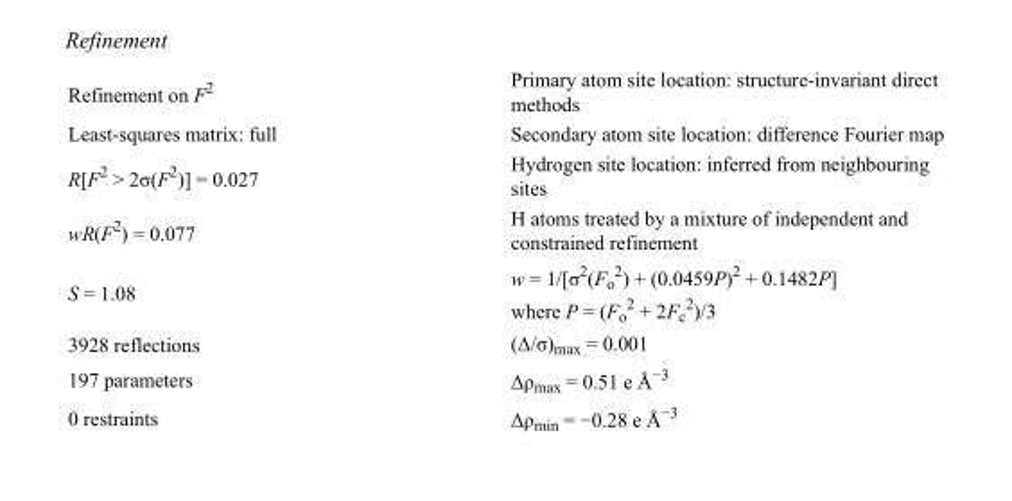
<table><tbody><tr><td>Refinement on F<sup>2</sup></td><td>Primary atom site location: structure-invariant direct methods</td></tr><tr><td>Least-squares matrix: full</td><td>Secondary atom site location: difference Fourier map</td></tr><tr><td>R[F<sup>2</sup> &gt; 2σ(F<sup>2</sup>)] = 0.027</td><td>Hydrogen site location: inferred from neighbouring sites</td></tr><tr><td>wR(F<sup>2</sup>) = 0.077</td><td>H atoms treated by a mixture of independent and constrained refinement</td></tr><tr><td>S = 1.08</td><td>w = 1/[σ<sup>2</sup>(F<sub>o</sub> <sup>2</sup>) + (0.0459P)<sup>2</sup> + 0.1482P] where P = (F<sub>o</sub> <sup>2</sup> + 2F<sub>c</sub> <sup>2</sup>)/3</td></tr><tr><td>3928 reflections</td><td>(Δ/σ)<sub>max</sub> = 0.001</td></tr><tr><td>197 parameters</td><td>Δρ<sub>max</sub> = 0.51 e Å<sup>−3</sup></td></tr><tr><td>0 restraints</td><td>Δρ<sub>min</sub> = −0.28 e Å<sup>−3</sup></td></tr></tbody></table>